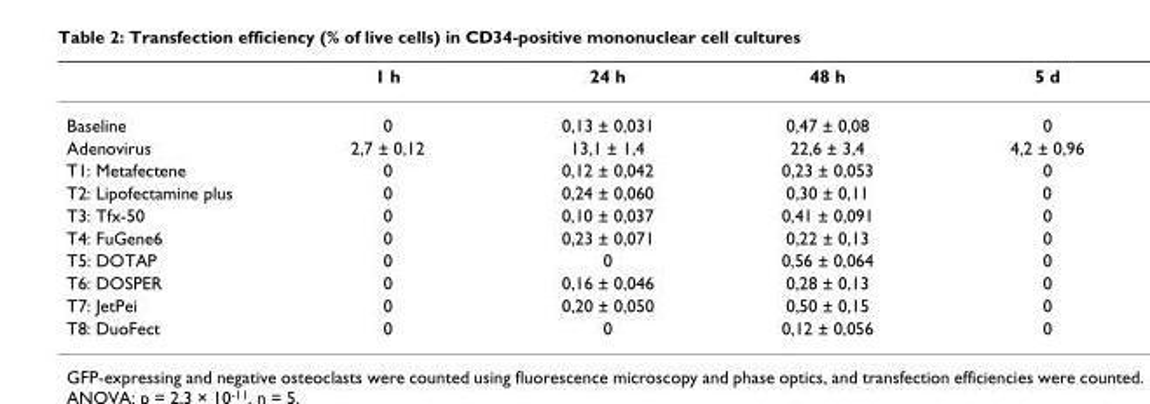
<table><thead><tr><td></td><td>1 h</td><td>24 h</td><td>48 h</td><td>5 d</td></tr></thead><tbody><tr><td>Baseline</td><td>0</td><td>0,13 ± 0,031</td><td>0,47 ± 0,08</td><td>0</td></tr><tr><td>Adenovirus</td><td>2,7 ± 0,12</td><td>13,1 ± 1,4</td><td>22,6 ± 3,4</td><td>4,2 ± 0,96</td></tr><tr><td>T1: Metafectene</td><td>0</td><td>0,12 ± 0,042</td><td>0,23 ± 0,053</td><td>0</td></tr><tr><td>T2: Lipofectamine plus</td><td>0</td><td>0,24 ± 0,060</td><td>0,30 ± 0,11</td><td>0</td></tr><tr><td>T3: Tfx-50</td><td>0</td><td>0,10 ± 0,037</td><td>0,41 ± 0,091</td><td>0</td></tr><tr><td>T4: FuGene6</td><td>0</td><td>0,23 ± 0,071</td><td>0,22 ± 0,13</td><td>0</td></tr><tr><td>T5: DOTAP</td><td>0</td><td>0</td><td>0,56 ± 0,064</td><td>0</td></tr><tr><td>T6: DOSPER</td><td>0</td><td>0,16 ± 0,046</td><td>0,28 ± 0,13</td><td>0</td></tr><tr><td>T7: JetPei</td><td>0</td><td>0,20 ± 0,050</td><td>0,50 ± 0,15</td><td>0</td></tr><tr><td>T8: DuoFect</td><td>0</td><td>0</td><td>0,12 ± 0,056</td><td>0</td></tr></tbody></table>